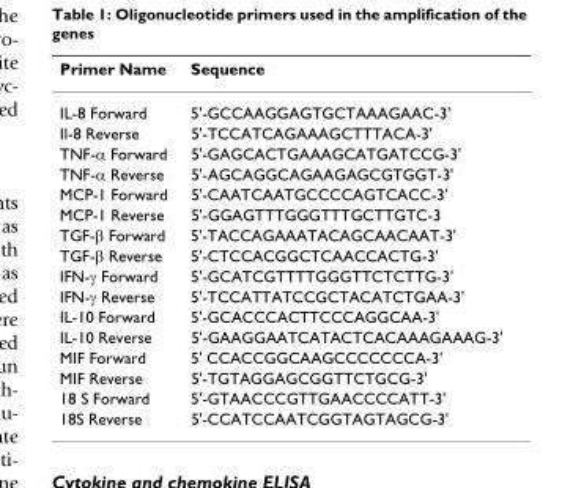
<table><thead><tr><td>Primer Name</td><td>Sequence</td></tr></thead><tbody><tr><td>IL-8 Forward</td><td>5&#x27;-GCCAAGGAGTGCTAAAGAAC-3&#x27;</td></tr><tr><td>Il-8 Reverse</td><td>5&#x27;-TCCATCAGAAAGCTTTACA-3&#x27;</td></tr><tr><td>TNF-α Forward</td><td>5&#x27;-GAGCACTGAAAGCATGATCCG-3&#x27;</td></tr><tr><td>TNF-α Reverse</td><td>5&#x27;-AGCAGGCAGAAGAGCGTGGT-3&#x27;</td></tr><tr><td>MCP-1 Forward</td><td>5&#x27;-CAATCAATGCCCCAGTCACC-3&#x27;</td></tr><tr><td>MCP-1 Reverse</td><td>5&#x27;-GGAGTTTGGGTTTGCTTGTC-3</td></tr><tr><td>TGF-β Forward</td><td>5&#x27;-TACCAGAAATACAGCAACAAT-3&#x27;</td></tr><tr><td>TGF-β Reverse</td><td>5&#x27;-CTCCACGGCTCAACCACTG-3&#x27;</td></tr><tr><td>IFN-γ Forward</td><td>5&#x27;-GCATCGTTTTGGGTTCTCTTG-3&#x27;</td></tr><tr><td>IFN-γ Reverse</td><td>5&#x27;-TCCATTATCCGCTACATCTGAA-3&#x27;</td></tr><tr><td>IL-10 Forward</td><td>5&#x27;-GCACCCACTTCCCAGGCAA-3&#x27;</td></tr><tr><td>IL-10 Reverse</td><td>5&#x27;-GAAGGAATCATACTCACAAAGAAAG-3&#x27;</td></tr><tr><td>MIF Forward</td><td>5&#x27; CCACCGGCAAGCCCCCCCA-3&#x27;</td></tr><tr><td>MIF Reverse</td><td>5&#x27;-TGTAGGAGCGGTTCTGCG-3&#x27;</td></tr><tr><td>18 S Forward</td><td>5&#x27;-GTAACCCGTTGAACCCCATT-3&#x27;</td></tr><tr><td>18S Reverse</td><td>5&#x27;-CCATCCAATCGGTAGTAGCG-3&#x27;</td></tr></tbody></table>